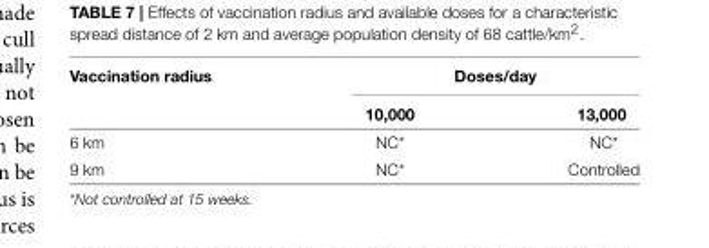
<table><thead><tr><td rowspan="2">Vaccination radius</td><td colspan="2">Doses/day</td></tr><tr><td>10,000</td><td>13,000</td></tr></thead><tbody><tr><td>6 km</td><td>NC*</td><td>NC*</td></tr><tr><td>9 km</td><td>NC*</td><td>Controlled</td></tr></tbody></table>